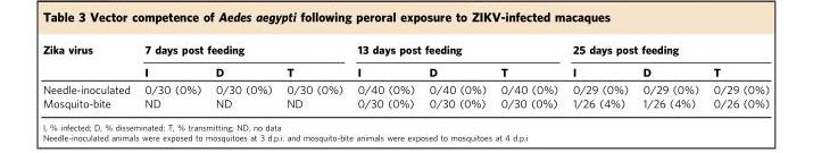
<table><thead><tr><td rowspan="2">Zika virus</td><td colspan="3">7 days post feeding</td><td colspan="3">13 days post feeding</td><td colspan="3">25 days post feeding</td></tr><tr><td>I</td><td>D</td><td>T</td><td>I</td><td>D</td><td>T</td><td>I</td><td>D</td><td>T</td></tr></thead><tbody><tr><td>Needle-inoculated</td><td>0/30 (0%)</td><td>0/30 (0%)</td><td>0/30 (0%)</td><td>0/40 (0%)</td><td>0/40 (0%)</td><td>0/40 (0%)</td><td>0/29 (0%)</td><td>0/29 (0%)</td><td>0/29 (0%)</td></tr><tr><td>Mosquito-bite</td><td>ND</td><td>ND</td><td>ND</td><td>0/30 (0%)</td><td>0/30 (0%)</td><td>0/30 (0%)</td><td>1/26 (4%)</td><td>1/26 (4%)</td><td>0/26 (0%)</td></tr></tbody></table>